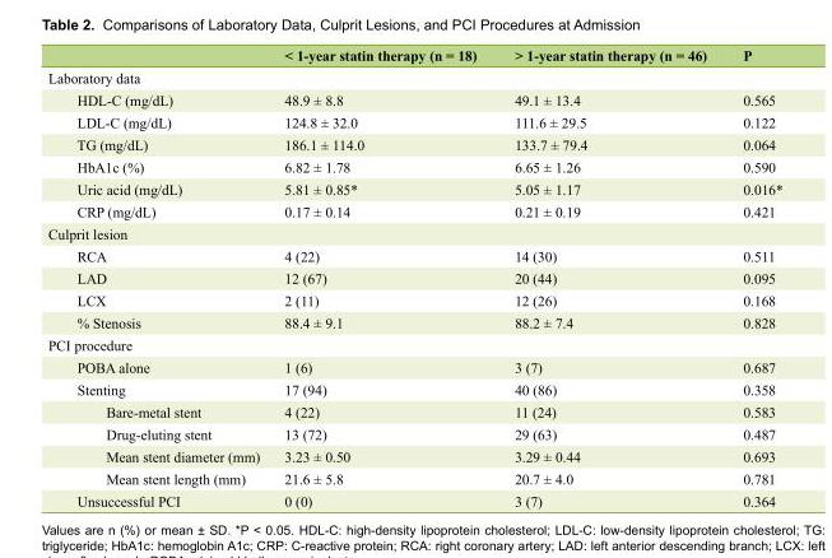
<table><thead><tr><td></td><td>&lt; 1-year statin therapy (n = 18)</td><td>&gt; 1-year statin therapy (n = 46)</td><td>P</td></tr></thead><tbody><tr><td colspan="4">Laboratory data</td></tr><tr><td>HDL-C (mg/dL)</td><td>48.9 ± 8.8</td><td>49.1 ± 13.4</td><td>0.565</td></tr><tr><td>LDL-C (mg/dL)</td><td>124.8 ± 32.0</td><td>111.6 ± 29.5</td><td>0.122</td></tr><tr><td>TG (mg/dL)</td><td>186.1 ± 114.0</td><td>133.7 ± 79.4</td><td>0.064</td></tr><tr><td>HbA1c (%)</td><td>6.82 ± 1.78</td><td>6.65 ± 1.26</td><td>0.590</td></tr><tr><td>Uric acid (mg/dL)</td><td>5.81 ± 0.85*</td><td>5.05 ± 1.17</td><td>0.016*</td></tr><tr><td>CRP (mg/dL)</td><td>0.17 ± 0.14</td><td>0.21 ± 0.19</td><td>0.421</td></tr><tr><td colspan="4">Culprit lesion</td></tr><tr><td>RCA</td><td>4 (22)</td><td>14 (30)</td><td>0.511</td></tr><tr><td>LAD</td><td>12 (67)</td><td>20 (44)</td><td>0.095</td></tr><tr><td>LCX</td><td>2 (11)</td><td>12 (26)</td><td>0.168</td></tr><tr><td>% Stenosis</td><td>88.4 ± 9.1</td><td>88.2 ± 7.4</td><td>0.828</td></tr><tr><td colspan="4">PCI procedure</td></tr><tr><td>POBA alone</td><td>1 (6)</td><td>3 (7)</td><td>0.687</td></tr><tr><td>Stenting</td><td>17 (94)</td><td>40 (86)</td><td>0.358</td></tr><tr><td>Bare-metal stent</td><td>4 (22)</td><td>11 (24)</td><td>0.583</td></tr><tr><td>Drug-eluting stent</td><td>13 (72)</td><td>29 (63)</td><td>0.487</td></tr><tr><td>Mean stent diameter (mm)</td><td>3.23 ± 0.50</td><td>3.29 ± 0.44</td><td>0.693</td></tr><tr><td>Mean stent length (mm)</td><td>21.6 ± 5.8</td><td>20.7 ± 4.0</td><td>0.781</td></tr><tr><td>Unsuccessful PCI</td><td>0 (0)</td><td>3 (7)</td><td>0.364</td></tr></tbody></table>